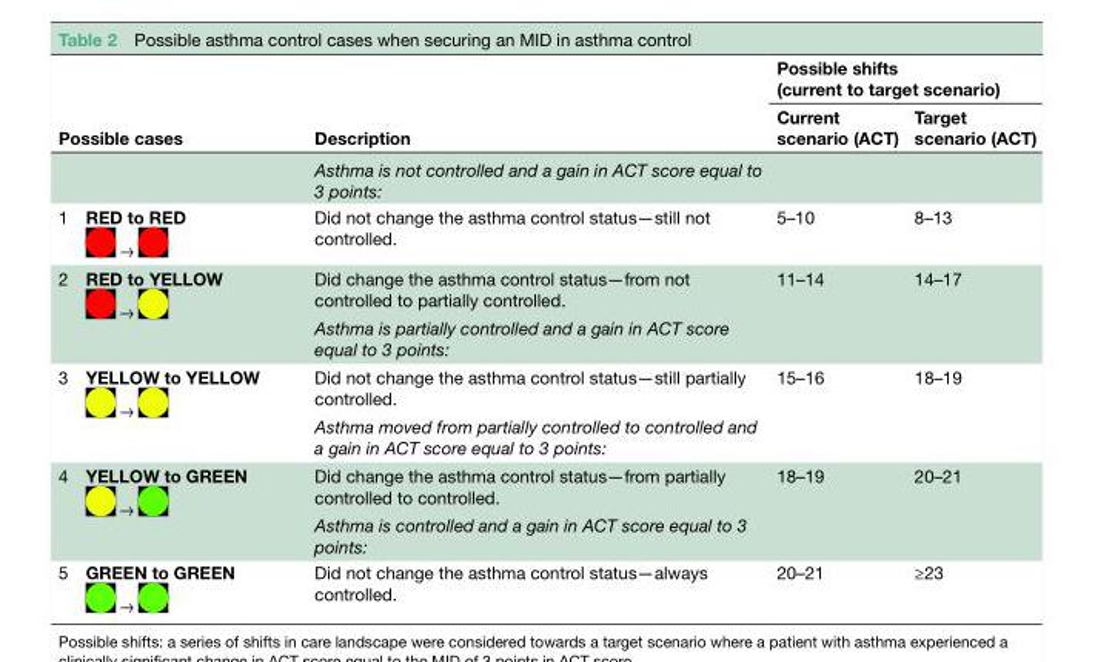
<table><thead><tr><td rowspan="3" colspan="2">Possible cases</td><td rowspan="4">Description Asthma is not controlled and a gain in ACT score equal to 3 points: Did not change the asthma control status—still not controlled.</td><td colspan="2">Possible shifts (current to target scenario)</td></tr><tr><td rowspan="3">Current scenario (ACT) 5–10</td><td rowspan="3">Target scenario (ACT) 8–13</td></tr><tr></tr><tr><td>1</td><td>RED to RED</td></tr></thead><tbody><tr><td rowspan="2">2</td><td rowspan="2">RED to YELLOW</td><td>Did change the asthma control status—from not controlled to partially controlled.</td><td>11–14</td><td>14–17</td></tr><tr><td>Asthma is partially controlled and a gain in ACT score equal to 3 points:</td><td></td><td></td></tr><tr><td rowspan="2">3</td><td rowspan="2">YELLOW to YELLOW</td><td>Did not change the asthma control status—still partially controlled.</td><td>15–16</td><td>18–19</td></tr><tr><td>Asthma moved from partially controlled to controlled and a gain in ACT score equal to 3 points:</td><td></td><td></td></tr><tr><td rowspan="2">4</td><td rowspan="2">YELLOW to GREEN</td><td>Did change the asthma control status—from partially controlled to controlled.</td><td>18–19</td><td>20–21</td></tr><tr><td>Asthma is controlled and a gain in ACT score equal to 3 points:</td><td></td><td></td></tr><tr><td>5</td><td>GREEN to GREEN</td><td>Did not change the asthma control status—always controlled.</td><td>20–21</td><td>≥23</td></tr></tbody></table>